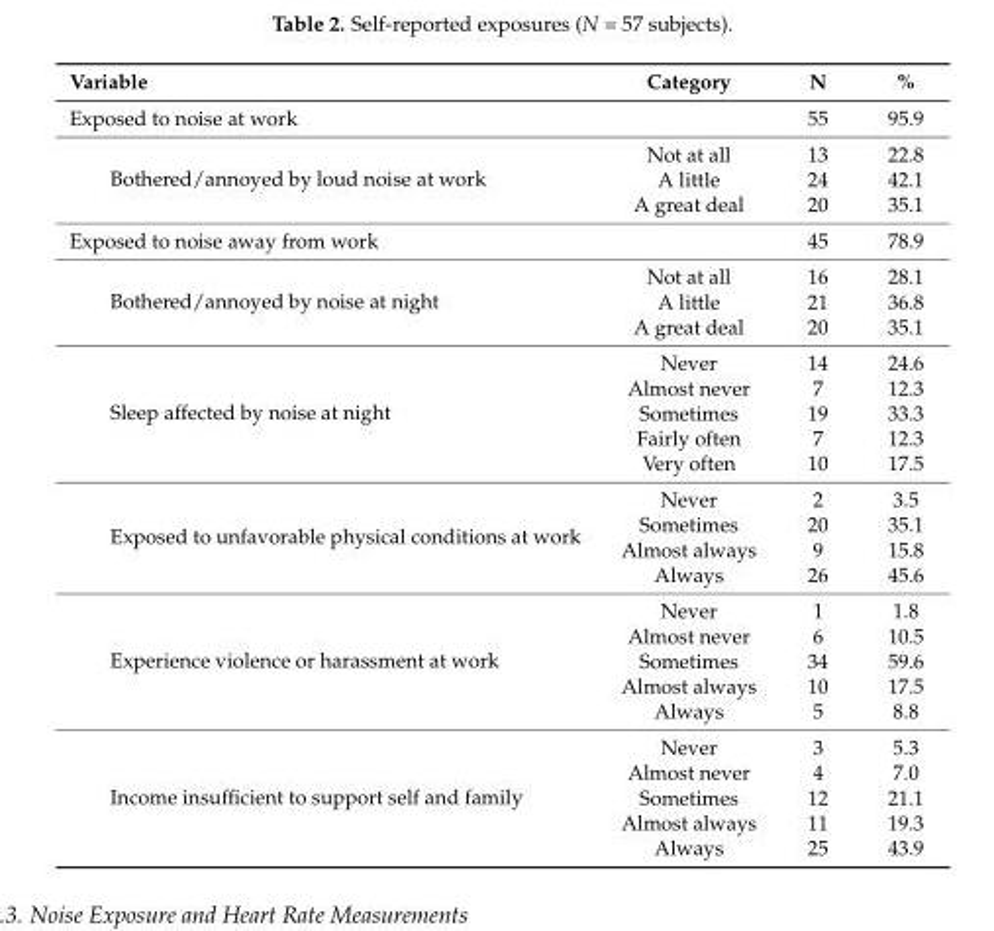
<table><thead><tr><td>Variable</td><td>Category</td><td>N</td><td>%</td></tr></thead><tbody><tr><td>Exposed to noise at work</td><td></td><td>55</td><td>95.9</td></tr><tr><td rowspan="3">Bothered/annoyed by loud noise at work</td><td>Not at all</td><td>13</td><td>22.8</td></tr><tr><td>A little</td><td>24</td><td>42.1</td></tr><tr><td>A great deal</td><td>20</td><td>35.1</td></tr><tr><td>Exposed to noise away from work</td><td></td><td>45</td><td>78.9</td></tr><tr><td rowspan="3">Bothered/annoyed by noise at night</td><td>Not at all</td><td>16</td><td>28.1</td></tr><tr><td>A little</td><td>21</td><td>36.8</td></tr><tr><td>A great deal</td><td>20</td><td>35.1</td></tr><tr><td rowspan="5">Sleep affected by noise at night</td><td>Never</td><td>14</td><td>24.6</td></tr><tr><td>Almost never</td><td>7</td><td>12.3</td></tr><tr><td>Sometimes</td><td>19</td><td>33.3</td></tr><tr><td>Fairly often</td><td>7</td><td>12.3</td></tr><tr><td>Very often</td><td>10</td><td>17.5</td></tr><tr><td rowspan="4">Exposed to unfavorable physical conditions at work</td><td>Never</td><td>2</td><td>3.5</td></tr><tr><td>Sometimes</td><td>20</td><td>35.1</td></tr><tr><td>Almost always</td><td>9</td><td>15.8</td></tr><tr><td>Always</td><td>26</td><td>45.6</td></tr><tr><td rowspan="5">Experience violence or harassment at work</td><td>Never</td><td>1</td><td>1.8</td></tr><tr><td>Almost never</td><td>6</td><td>10.5</td></tr><tr><td>Sometimes</td><td>34</td><td>59.6</td></tr><tr><td>Almost always</td><td>10</td><td>17.5</td></tr><tr><td>Always</td><td>5</td><td>8.8</td></tr><tr><td rowspan="5">Income insufficient to support self and family</td><td>Never</td><td>3</td><td>5.3</td></tr><tr><td>Almost never</td><td>4</td><td>7.0</td></tr><tr><td>Sometimes</td><td>12</td><td>21.1</td></tr><tr><td>Almost always</td><td>11</td><td>19.3</td></tr><tr><td>Always</td><td>25</td><td>43.9</td></tr></tbody></table>